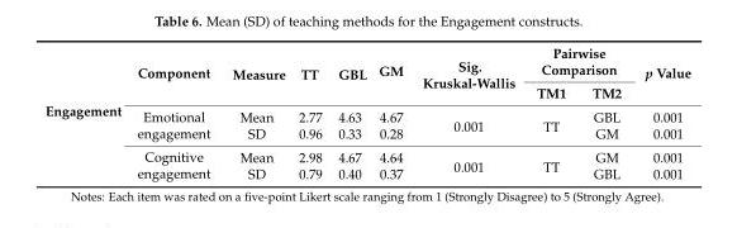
<table><tbody><tr><td rowspan="6">Engagement</td><td rowspan="2">Component</td><td rowspan="2">Measure</td><td rowspan="2">TT</td><td rowspan="2">GBL</td><td rowspan="2">GM</td><td rowspan="2">Sig. Kruskal-Wallis</td><td colspan="2">Pairwise Comparison</td><td rowspan="2">p Value</td></tr><tr><td>TM1</td><td>TM2</td></tr><tr><td rowspan="2">Emotional engagement</td><td>Mean</td><td>2.77</td><td>4.63</td><td>4.67</td><td rowspan="2">0.001</td><td rowspan="2">TT</td><td>GBL</td><td>0.001</td></tr><tr><td>SD</td><td>0.96</td><td>0.33</td><td>0.28</td><td>GM</td><td>0.001</td></tr><tr><td rowspan="2">Cognitive engagement</td><td>Mean</td><td>2.98</td><td>4.67</td><td>4.64</td><td rowspan="2">0.001</td><td rowspan="2">TT</td><td>GM</td><td>0.001</td></tr><tr><td>SD</td><td>0.79</td><td>0.40</td><td>0.37</td><td>GBL</td><td>0.001</td></tr></tbody></table>